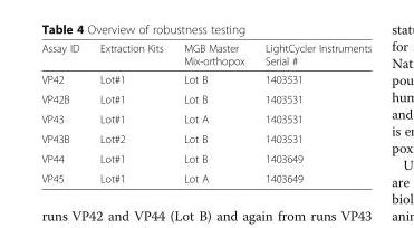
<table><thead><tr><td>Assay ID</td><td>Extraction Kits</td><td>MGB Master Mix-orthopox</td><td>LightCycler Instruments Serial #</td></tr></thead><tbody><tr><td>VP42</td><td>Lot#1</td><td>Lot B</td><td>1403531</td></tr><tr><td>VP42B</td><td>Lot#1</td><td>Lot B</td><td>1403531</td></tr><tr><td>VP43</td><td>Lot#1</td><td>Lot A</td><td>1403531</td></tr><tr><td>VP43B</td><td>Lot#2</td><td>Lot B</td><td>1403531</td></tr><tr><td>VP44</td><td>Lot#1</td><td>Lot B</td><td>1403649</td></tr><tr><td>VP45</td><td>Lot#1</td><td>Lot A</td><td>1403649</td></tr></tbody></table>